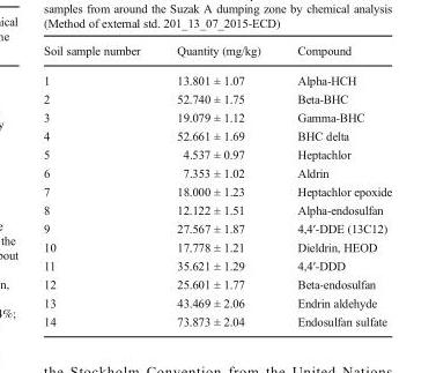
<table><thead><tr><td>Soil sample number</td><td>Quantity (mg/kg)</td><td>Compound</td></tr></thead><tbody><tr><td>1</td><td>13.801 ± 1.07</td><td>Alpha-HCH</td></tr><tr><td>2</td><td>52.740 ± 1.75</td><td>Beta-BHC</td></tr><tr><td>3</td><td>19.079 ± 1.12</td><td>Gamma-BHC</td></tr><tr><td>4</td><td>52.661 ± 1.69</td><td>BHC delta</td></tr><tr><td>5</td><td>4.537 ± 0.97</td><td>Heptachlor</td></tr><tr><td>6</td><td>7.353 ± 1.02</td><td>Aldrin</td></tr><tr><td>7</td><td>18.000 ± 1.23</td><td>Heptachlor epoxide</td></tr><tr><td>8</td><td>12.122 ± 1.51</td><td>Alpha-endosulfan</td></tr><tr><td>9</td><td>27.567 ± 1.87</td><td>4,4′-DDE (13C12)</td></tr><tr><td>10</td><td>17.778 ± 1.21</td><td>Dieldrin, HEOD</td></tr><tr><td>11</td><td>35.621 ± 1.29</td><td>4,4′-DDD</td></tr><tr><td>12</td><td>25.601 ± 1.77</td><td>Beta-endosulfan</td></tr><tr><td>13</td><td>43.469 ± 2.06</td><td>Endrin aldehyde</td></tr><tr><td>14</td><td>73.873 ± 2.04</td><td>Endosulfan sulfate</td></tr></tbody></table>